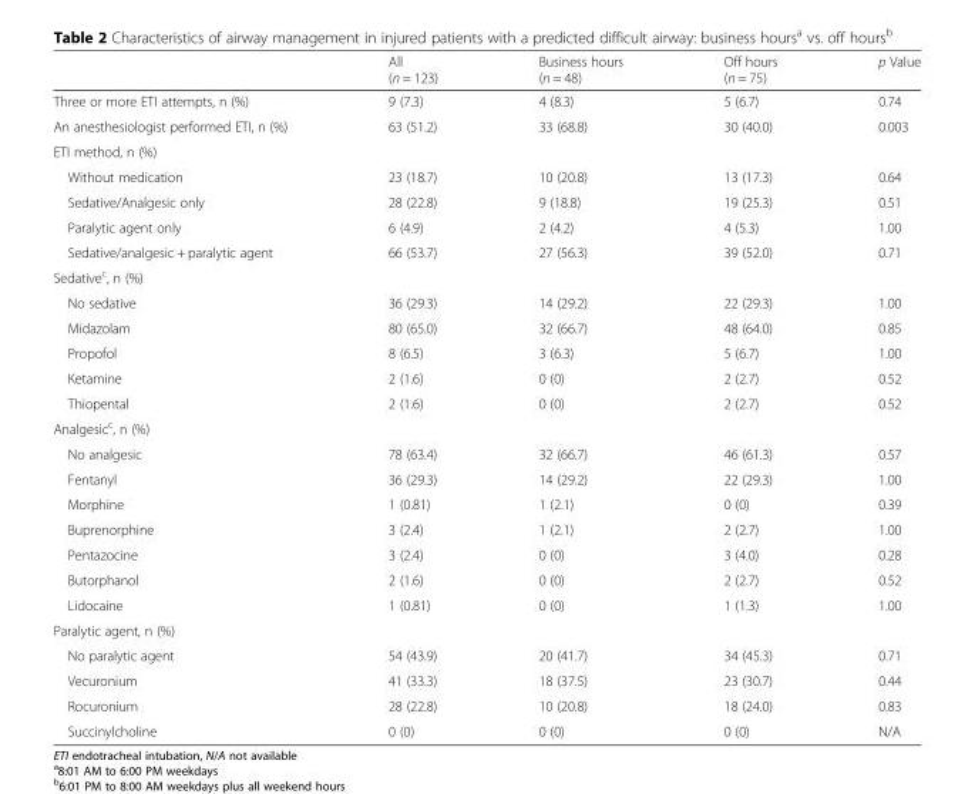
<table><thead><tr><td></td><td>All (n = 123)</td><td>Business hours (n = 48)</td><td>Off hours (n = 75)</td><td>p Value</td></tr></thead><tbody><tr><td>Three or more ETI attempts, n (%)</td><td>9 (7.3)</td><td>4 (8.3)</td><td>5 (6.7)</td><td>0.74</td></tr><tr><td>An anesthesiologist performed ETI, n (%)</td><td>63 (51.2)</td><td>33 (68.8)</td><td>30 (40.0)</td><td>0.003</td></tr><tr><td colspan="5">ETI method, n (%)</td></tr><tr><td>Without medication</td><td>23 (18.7)</td><td>10 (20.8)</td><td>13 (17.3)</td><td>0.64</td></tr><tr><td>Sedative/Analgesic only</td><td>28 (22.8)</td><td>9 (18.8)</td><td>19 (25.3)</td><td>0.51</td></tr><tr><td>Paralytic agent only</td><td>6 (4.9)</td><td>2 (4.2)</td><td>4 (5.3)</td><td>1.00</td></tr><tr><td>Sedative/analgesic + paralytic agent</td><td>66 (53.7)</td><td>27 (56.3)</td><td>39 (52.0)</td><td>0.71</td></tr><tr><td colspan="5">Sedative<sup>c</sup>, n (%)</td></tr><tr><td>No sedative</td><td>36 (29.3)</td><td>14 (29.2)</td><td>22 (29.3)</td><td>1.00</td></tr><tr><td>Midazolam</td><td>80 (65.0)</td><td>32 (66.7)</td><td>48 (64.0)</td><td>0.85</td></tr><tr><td>Propofol</td><td>8 (6.5)</td><td>3 (6.3)</td><td>5 (6.7)</td><td>1.00</td></tr><tr><td>Ketamine</td><td>2 (1.6)</td><td>0 (0)</td><td>2 (2.7)</td><td>0.52</td></tr><tr><td>Thiopental</td><td>2 (1.6)</td><td>0 (0)</td><td>2 (2.7)</td><td>0.52</td></tr><tr><td colspan="5">Analgesic<sup>c</sup>, n (%)</td></tr><tr><td>No analgesic</td><td>78 (63.4)</td><td>32 (66.7)</td><td>46 (61.3)</td><td>0.57</td></tr><tr><td>Fentanyl</td><td>36 (29.3)</td><td>14 (29.2)</td><td>22 (29.3)</td><td>1.00</td></tr><tr><td>Morphine</td><td>1 (0.81)</td><td>1 (2.1)</td><td>0 (0)</td><td>0.39</td></tr><tr><td>Buprenorphine</td><td>3 (2.4)</td><td>1 (2.1)</td><td>2 (2.7)</td><td>1.00</td></tr><tr><td>Pentazocine</td><td>3 (2.4)</td><td>0 (0)</td><td>3 (4.0)</td><td>0.28</td></tr><tr><td>Butorphanol</td><td>2 (1.6)</td><td>0 (0)</td><td>2 (2.7)</td><td>0.52</td></tr><tr><td>Lidocaine</td><td>1 (0.81)</td><td>0 (0)</td><td>1 (1.3)</td><td>1.00</td></tr><tr><td colspan="5">Paralytic agent, n (%)</td></tr><tr><td>No paralytic agent</td><td>54 (43.9)</td><td>20 (41.7)</td><td>34 (45.3)</td><td>0.71</td></tr><tr><td>Vecuronium</td><td>41 (33.3)</td><td>18 (37.5)</td><td>23 (30.7)</td><td>0.44</td></tr><tr><td>Rocuronium</td><td>28 (22.8)</td><td>10 (20.8)</td><td>18 (24.0)</td><td>0.83</td></tr><tr><td>Succinylcholine</td><td>0 (0)</td><td>0 (0)</td><td>0 (0)</td><td>N/A</td></tr></tbody></table>